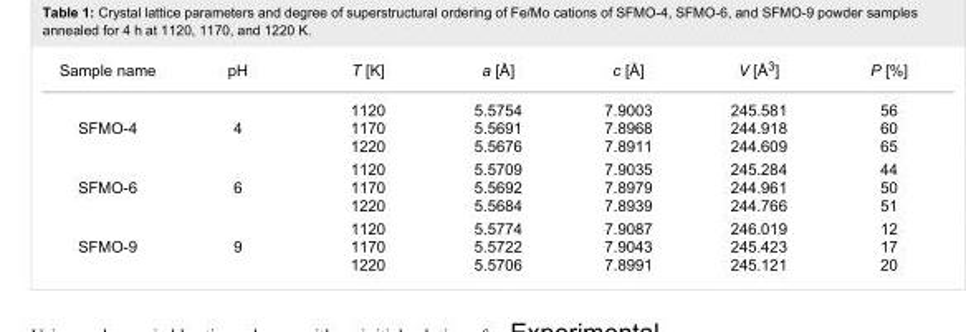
<table><tbody><tr><td>Sample name</td><td>pH</td><td>Т [K]</td><td>a [Å]</td><td>с [Å]</td><td>V [Å<sup>3</sup>]</td><td>P [%]</td></tr><tr><td>SFMO-4</td><td>4</td><td>1120 1170 1220</td><td>5.5754 5.5691 5.5676</td><td>7.9003 7.8968 7.8911</td><td>245.581 244.918 244.609</td><td>56 60 65</td></tr><tr><td>SFMO-6</td><td>6</td><td>1120 1170 1220</td><td>5.5709 5.5692 5.5684</td><td>7.9035 7.8979 7.8939</td><td>245.284 244.961 244.766</td><td>44 50 51</td></tr><tr><td>SFMO-9</td><td>9</td><td>1120 1170 1220</td><td>5.5774 5.5722 5.5706</td><td>7.9087 7.9043 7.8991</td><td>246.019 245.423 245.121</td><td>12 17 20</td></tr></tbody></table>